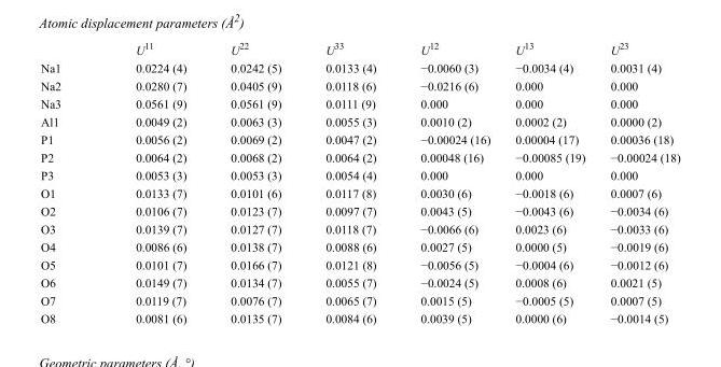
<table><thead><tr><td></td><td>U<sup>11</sup></td><td>U<sup>22</sup></td><td>U<sup>33</sup></td><td>U<sup>12</sup></td><td>U<sup>13</sup></td><td>U<sup>23</sup></td></tr></thead><tbody><tr><td>Na1</td><td>0.0224 (4)</td><td>0.0242 (5)</td><td>0.0133 (4)</td><td>−0.0060 (3)</td><td>−0.0034 (4)</td><td>0.0031 (4)</td></tr><tr><td>Na2</td><td>0.0280 (7)</td><td>0.0405 (9)</td><td>0.0118 (6)</td><td>−0.0216 (6)</td><td>0.000</td><td>0.000</td></tr><tr><td>Na3</td><td>0.0561 (9)</td><td>0.0561 (9)</td><td>0.0111 (9)</td><td>0.000</td><td>0.000</td><td>0.000</td></tr><tr><td>Al1</td><td>0.0049 (2)</td><td>0.0063 (3)</td><td>0.0055 (3)</td><td>0.0010 (2)</td><td>0.0002 (2)</td><td>0.0000 (2)</td></tr><tr><td>P1</td><td>0.0056 (2)</td><td>0.0069 (2)</td><td>0.0047 (2)</td><td>−0.00024 (16)</td><td>0.00004 (17)</td><td>0.00036 (18)</td></tr><tr><td>P2</td><td>0.0064 (2)</td><td>0.0068 (2)</td><td>0.0064 (2)</td><td>0.00048 (16)</td><td>−0.00085 (19)</td><td>−0.00024 (18)</td></tr><tr><td>P3</td><td>0.0053 (3)</td><td>0.0053 (3)</td><td>0.0054 (4)</td><td>0.000</td><td>0.000</td><td>0.000</td></tr><tr><td>O1</td><td>0.0133 (7)</td><td>0.0101 (6)</td><td>0.0117 (8)</td><td>0.0030 (6)</td><td>−0.0018 (6)</td><td>0.0007 (6)</td></tr><tr><td>O2</td><td>0.0106 (7)</td><td>0.0123 (7)</td><td>0.0097 (7)</td><td>0.0043 (5)</td><td>−0.0043 (6)</td><td>−0.0034 (6)</td></tr><tr><td>O3</td><td>0.0139 (7)</td><td>0.0127 (7)</td><td>0.0118 (7)</td><td>−0.0066 (6)</td><td>0.0023 (6)</td><td>−0.0033 (6)</td></tr><tr><td>O4</td><td>0.0086 (6)</td><td>0.0138 (7)</td><td>0.0088 (6)</td><td>0.0027 (5)</td><td>0.0000 (5)</td><td>−0.0019 (6)</td></tr><tr><td>O5</td><td>0.0101 (7)</td><td>0.0166 (7)</td><td>0.0121 (8)</td><td>−0.0056 (5)</td><td>−0.0004 (6)</td><td>−0.0012 (6)</td></tr><tr><td>O6</td><td>0.0149 (7)</td><td>0.0134 (7)</td><td>0.0055 (7)</td><td>−0.0024 (5)</td><td>0.0008 (6)</td><td>0.0021 (5)</td></tr><tr><td>O7</td><td>0.0119 (7)</td><td>0.0076 (7)</td><td>0.0065 (7)</td><td>0.0015 (5)</td><td>−0.0005 (5)</td><td>0.0007 (5)</td></tr><tr><td>O8</td><td>0.0081 (6)</td><td>0.0135 (7)</td><td>0.0084 (6)</td><td>0.0039 (5)</td><td>0.0000 (6)</td><td>−0.0014 (5)</td></tr></tbody></table>